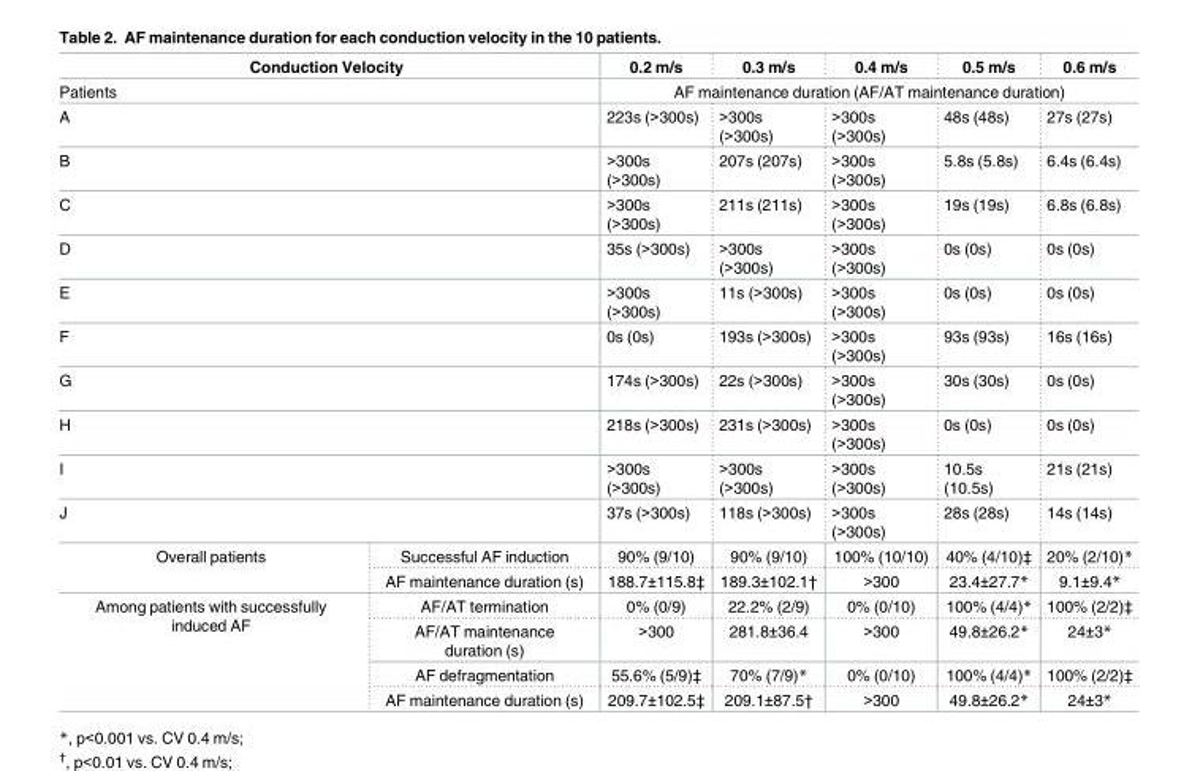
<table><thead><tr><td colspan="2">Conduction Velocity</td><td>0.2 m/s</td><td>0.3 m/s</td><td>0.4 m/s</td><td>0.5 m/s</td><td>0.6 m/s</td></tr></thead><tbody><tr><td colspan="2">Patients</td><td colspan="5">AF maintenance duration (AF/AT maintenance duration)</td></tr><tr><td colspan="2">A</td><td>223s (&gt;300s)</td><td>&gt;300s (&gt;300s)</td><td>&gt;300s (&gt;300s)</td><td>48s (48s)</td><td>27s (27s)</td></tr><tr><td colspan="2">B</td><td>&gt;300s (&gt;300s)</td><td>207s (207s)</td><td>&gt;300s (&gt;300s)</td><td>5.8s (5.8s)</td><td>6.4s (6.4s)</td></tr><tr><td colspan="2">C</td><td>&gt;300s (&gt;300s)</td><td>211s (211s)</td><td>&gt;300s (&gt;300s)</td><td>19s (19s)</td><td>6.8s (6.8s)</td></tr><tr><td colspan="2">D</td><td>35s (&gt;300s)</td><td>&gt;300s (&gt;300s)</td><td>&gt;300s (&gt;300s)</td><td>0s (0s)</td><td>0s (0s)</td></tr><tr><td colspan="2">E</td><td>&gt;300s (&gt;300s)</td><td>11s (&gt;300s)</td><td>&gt;300s (&gt;300s)</td><td>0s (0s)</td><td>0s (0s)</td></tr><tr><td colspan="2">F</td><td>0s (0s)</td><td>193s (&gt;300s)</td><td>&gt;300s (&gt;300s)</td><td>93s (93s)</td><td>16s (16s)</td></tr><tr><td colspan="2">G</td><td>174s (&gt;300s)</td><td>22s (&gt;300s)</td><td>&gt;300s (&gt;300s)</td><td>30s (30s)</td><td>0s (0s)</td></tr><tr><td colspan="2">H</td><td>218s (&gt;300s)</td><td>231s (&gt;300s)</td><td>&gt;300s (&gt;300s)</td><td>0s (0s)</td><td>0s (0s)</td></tr><tr><td colspan="2">I</td><td>&gt;300s (&gt;300s)</td><td>&gt;300s (&gt;300s)</td><td>&gt;300s (&gt;300s)</td><td>10.5s (10.5s)</td><td>21s (21s)</td></tr><tr><td colspan="2">J</td><td>37s (&gt;300s)</td><td>118s (&gt;300s)</td><td>&gt;300s (&gt;300s)</td><td>28s (28s)</td><td>14s (14s)</td></tr><tr><td rowspan="2">Overall patients</td><td>Successful AF induction</td><td>90% (9/10)</td><td>90% (9/10)</td><td>100% (10/10)</td><td>40% (4/10)‡</td><td>20% (2/10)*</td></tr><tr><td>AF maintenance duration (s)</td><td>188.7±115.8‡</td><td>189.3±102.1†</td><td>&gt;300</td><td>23.4±27.7*</td><td>9.1±9.4*</td></tr><tr><td rowspan="4">Among patients with successfully induced AF</td><td>AF/AT termination</td><td>0% (0/9)</td><td>22.2% (2/9)</td><td>0% (0/10)</td><td>100% (4/4)*</td><td>100% (2/2)‡</td></tr><tr><td>AF/AT maintenance duration (s)</td><td>&gt;300</td><td>281.8±36.4</td><td>&gt;300</td><td>49.8±26.2*</td><td>24±3*</td></tr><tr><td>AF defragmentation</td><td>55.6% (5/9)‡</td><td>70% (7/9)*</td><td>0% (0/10)</td><td>100% (4/4)*</td><td>100% (2/2)‡</td></tr><tr><td>AF maintenance duration (s)</td><td>209.7±102.5‡</td><td>209.1±87.5†</td><td>&gt;300</td><td>49.8±26.2*</td><td>24±3*</td></tr></tbody></table>